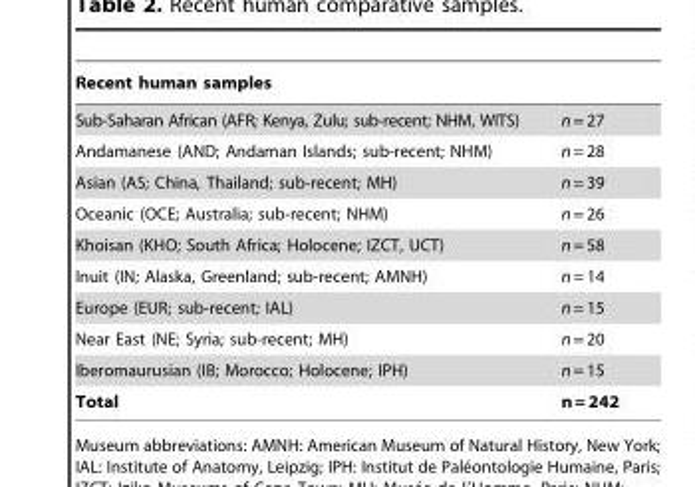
<table><thead><tr><td>Recent human samples</td><td></td></tr></thead><tbody><tr><td>Sub-Saharan African (AFR; Kenya, Zulu; sub-recent; NHM, WITS)</td><td>n = 27</td></tr><tr><td>Andamanese (AND; Andaman Islands; sub-recent; NHM)</td><td>n = 28</td></tr><tr><td>Asian (AS; China, Thailand; sub-recent; MH)</td><td>n = 39</td></tr><tr><td>Oceanic (OCE; Australia; sub-recent; NHM)</td><td>n = 26</td></tr><tr><td>Khoisan (KHO; South Africa; Holocene; IZCT, UCT)</td><td>n = 58</td></tr><tr><td>Inuit (IN; Alaska, Greenland; sub-recent; AMNH)</td><td>n = 14</td></tr><tr><td>Europe (EUR; sub-recent; IAL)</td><td>n = 15</td></tr><tr><td>Near East (NE; Syria; sub-recent; MH)</td><td>n = 20</td></tr><tr><td>Iberomaurusian (IB; Morocco; Holocene; IPH)</td><td>n = 15</td></tr><tr><td>Total</td><td>n = 242</td></tr></tbody></table>